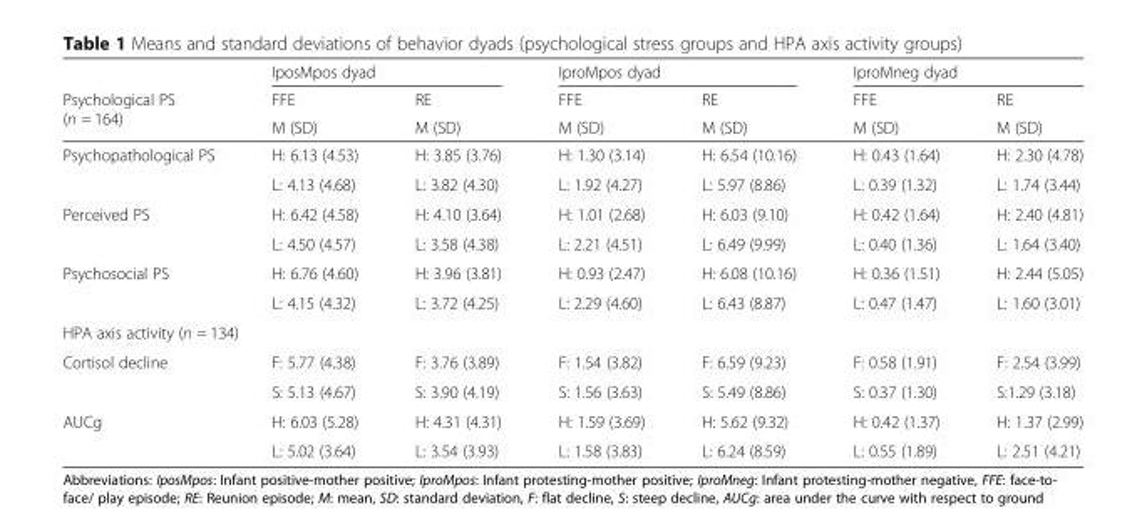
<table><thead><tr><td rowspan="3">Psychological PS (n = 164)</td><td colspan="2">IposMpos dyad</td><td colspan="2">IproMpos dyad</td><td colspan="2">IproMneg dyad</td></tr><tr><td rowspan="2">FFE M (SD)</td><td rowspan="2">RE M (SD)</td><td rowspan="2">FFE M (SD)</td><td rowspan="2">RE M (SD)</td><td rowspan="2">FFE M (SD)</td><td rowspan="2">RE M (SD)</td></tr><tr></tr></thead><tbody><tr><td rowspan="2">Psychopathological PS</td><td>H: 6.13 (4.53)</td><td>H: 3.85 (3.76)</td><td>H: 1.30 (3.14)</td><td>H: 6.54 (10.16)</td><td>H: 0.43 (1.64)</td><td>H: 2.30 (4.78)</td></tr><tr><td>L: 4.13 (4.68)</td><td>L: 3.82 (4.30)</td><td>L: 1.92 (4.27)</td><td>L: 5.97 (8.86)</td><td>L: 0.39 (1.32)</td><td>L: 1.74 (3.44)</td></tr><tr><td rowspan="2">Perceived PS</td><td>H: 6.42 (4.58)</td><td>H: 4.10 (3.64)</td><td>H: 1.01 (2.68)</td><td>H: 6.03 (9.10)</td><td>H: 0.42 (1.64)</td><td>H: 2.40 (4.81)</td></tr><tr><td>L: 4.50 (4.57)</td><td>L: 3.58 (4.38)</td><td>L: 2.21 (4.51)</td><td>L: 6.49 (9.99)</td><td>L: 0.40 (1.36)</td><td>L: 1.64 (3.40)</td></tr><tr><td rowspan="2">Psychosocial PS</td><td>H: 6.76 (4.60)</td><td>H: 3.96 (3.81)</td><td>H: 0.93 (2.47)</td><td>H: 6.08 (10.16)</td><td>H: 0.36 (1.51)</td><td>H: 2.44 (5.05)</td></tr><tr><td>L: 4.15 (4.32)</td><td>L: 3.72 (4.25)</td><td>L: 2.29 (4.60)</td><td>L: 6.43 (8.87)</td><td>L: 0.47 (1.47)</td><td>L: 1.60 (3.01)</td></tr><tr><td colspan="7">HPA axis activity (n = 134)</td></tr><tr><td rowspan="2">Cortisol decline</td><td>F: 5.77 (4.38)</td><td>F: 3.76 (3.89)</td><td>F: 1.54 (3.82)</td><td>F: 6.59 (9.23)</td><td>F: 0.58 (1.91)</td><td>F: 2.54 (3.99)</td></tr><tr><td>S: 5.13 (4.67)</td><td>S: 3.90 (4.19)</td><td>S: 1.56 (3.63)</td><td>S: 5.49 (8.86)</td><td>S: 0.37 (1.30)</td><td>S:1.29 (3.18)</td></tr><tr><td rowspan="2">AUCg</td><td>H: 6.03 (5.28)</td><td>H: 4.31 (4.31)</td><td>H: 1.59 (3.69)</td><td>H: 5.62 (9.32)</td><td>H: 0.42 (1.37)</td><td>H: 1.37 (2.99)</td></tr><tr><td>L: 5.02 (3.64)</td><td>L: 3.54 (3.93)</td><td>L: 1.58 (3.83)</td><td>L: 6.24 (8.59)</td><td>L: 0.55 (1.89)</td><td>L: 2.51 (4.21)</td></tr></tbody></table>